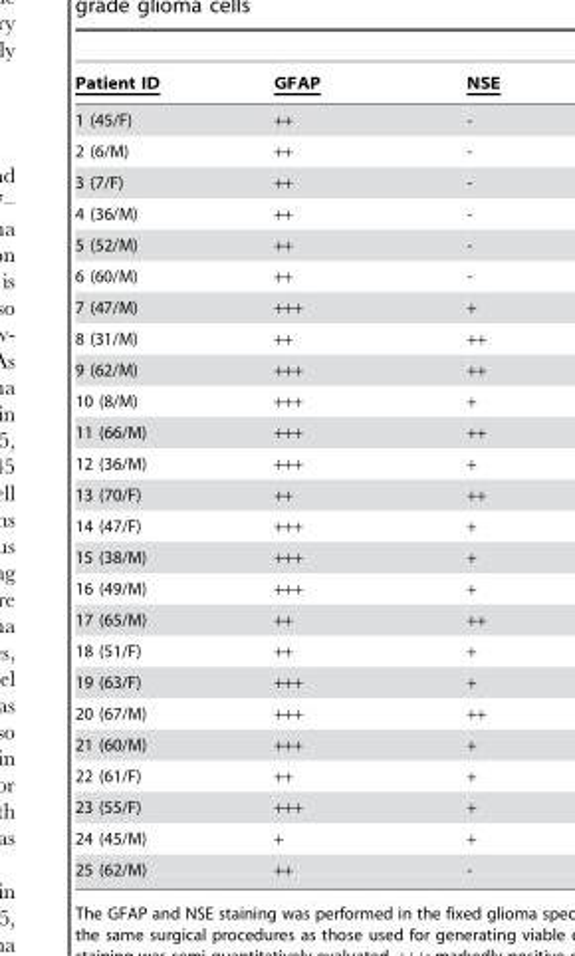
<table><thead><tr><td>Patient ID</td><td>GFAP</td><td>NSE</td></tr></thead><tbody><tr><td>1 (45/F)</td><td>++</td><td>-</td></tr><tr><td>2 (6/M)</td><td>++</td><td>-</td></tr><tr><td>3 (7/F)</td><td>++</td><td>-</td></tr><tr><td>4 (36/M)</td><td>++</td><td>-</td></tr><tr><td>5 (52/M)</td><td>++</td><td>-</td></tr><tr><td>6 (60/M)</td><td>++</td><td>-</td></tr><tr><td>7 (47/M)</td><td>+++</td><td>+</td></tr><tr><td>8 (31/M)</td><td>++</td><td>++</td></tr><tr><td>9 (62/M)</td><td>+++</td><td>++</td></tr><tr><td>10 (8/M)</td><td>+++</td><td>+</td></tr><tr><td>11 (66/M)</td><td>+++</td><td>++</td></tr><tr><td>12 (36/M)</td><td>+++</td><td>+</td></tr><tr><td>13 (70/F)</td><td>++</td><td>++</td></tr><tr><td>14 (47/F)</td><td>+++</td><td>+</td></tr><tr><td>15 (38/M)</td><td>+++</td><td>+</td></tr><tr><td>16 (49/M)</td><td>+++</td><td>+</td></tr><tr><td>17 (65/M)</td><td>++</td><td>++</td></tr><tr><td>18 (51/F)</td><td>++</td><td>+</td></tr><tr><td>19 (63/F)</td><td>+++</td><td>+</td></tr><tr><td>20 (67/M)</td><td>+++</td><td>++</td></tr><tr><td>21 (60/M)</td><td>+++</td><td>+</td></tr><tr><td>22 (61/F)</td><td>++</td><td>+</td></tr><tr><td>23 (55/F)</td><td>+++</td><td>+</td></tr><tr><td>24 (45/M)</td><td>+</td><td>+</td></tr><tr><td>25 (62/M)</td><td>++</td><td>-</td></tr></tbody></table>